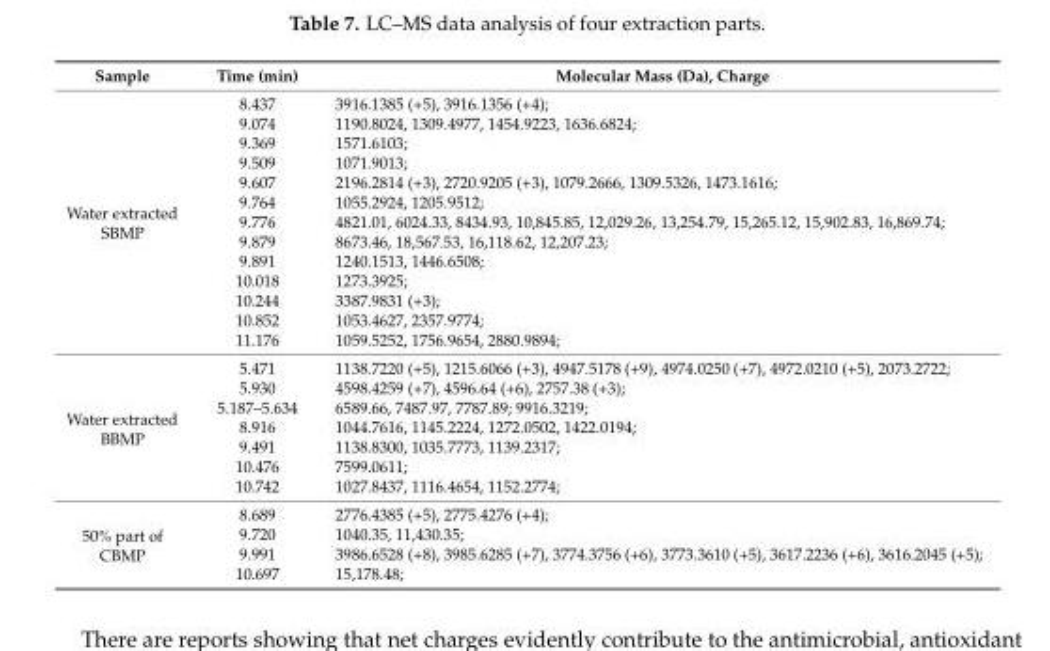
<table><thead><tr><td>Sample</td><td>Time (min)</td><td>Molecular Mass (Da), Charge</td></tr></thead><tbody><tr><td rowspan="13">Water extracted SBMP</td><td>8.437</td><td>3916.1385 (+5), 3916.1356 (+4);</td></tr><tr><td>9.074</td><td>1190.8024, 1309.4977, 1454.9223, 1636.6824;</td></tr><tr><td>9.369</td><td>1571.6103;</td></tr><tr><td>9.509</td><td>1071.9013;</td></tr><tr><td>9.607</td><td>2196.2814 (+3), 2720.9205 (+3), 1079.2666, 1309.5326, 1473.1616;</td></tr><tr><td>9.764</td><td>1055.2924, 1205.9512;</td></tr><tr><td>9.776</td><td>4821.01, 6024.33, 8434.93, 10,845.85, 12,029.26, 13,254.79, 15,265.12, 15,902.83, 16,869.74;</td></tr><tr><td>9.879</td><td>8673.46, 18,567.53, 16,118.62, 12,207.23;</td></tr><tr><td>9.891</td><td>1240.1513, 1446.6508;</td></tr><tr><td>10.018</td><td>1273.3925;</td></tr><tr><td>10.244</td><td>3387.9831 (+3);</td></tr><tr><td>10.852</td><td>1053.4627, 2357.9774;</td></tr><tr><td>11.176</td><td>1059.5252, 1756.9654, 2880.9894;</td></tr><tr><td rowspan="7">Water extracted BBMP</td><td>5.471</td><td>1138.7220 (+5), 1215.6066 (+3), 4947.5178 (+9), 4974.0250 (+7), 4972.0210 (+5), 2073.2722;</td></tr><tr><td>5.930</td><td>4598.4259 (+7), 4596.64 (+6), 2757.38 (+3);</td></tr><tr><td>5.187–5.634</td><td>6589.66, 7487.97, 7787.89; 9916.3219;</td></tr><tr><td>8.916</td><td>1044.7616, 1145.2224, 1272.0502, 1422.0194;</td></tr><tr><td>9.491</td><td>1138.8300, 1035.7773, 1139.2317;</td></tr><tr><td>10.476</td><td>7599.0611;</td></tr><tr><td>10.742</td><td>1027.8437, 1116.4654, 1152.2774;</td></tr><tr><td rowspan="4">50% part of CBMP</td><td>8.689</td><td>2776.4385 (+5), 2775.4276 (+4);</td></tr><tr><td>9.720</td><td>1040.35, 11,430.35;</td></tr><tr><td>9.991</td><td>3986.6528 (+8), 3985.6285 (+7), 3774.3756 (+6), 3773.3610 (+5), 3617.2236 (+6), 3616.2045 (+5);</td></tr><tr><td>10.697</td><td>15,178.48;</td></tr></tbody></table>